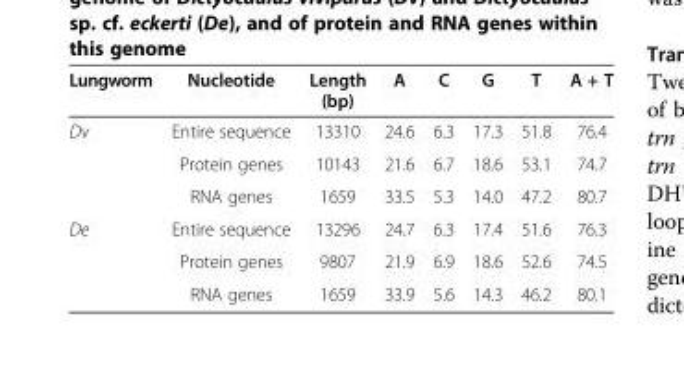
<table><thead><tr><td>Lungworm</td><td>Nucleotide</td><td>Length (bp)</td><td>A</td><td>C</td><td>G</td><td>T</td><td>A + T</td></tr></thead><tbody><tr><td rowspan="3">Dv</td><td>Entire sequence</td><td>13310</td><td>24.6</td><td>6.3</td><td>17.3</td><td>51.8</td><td>76.4</td></tr><tr><td>Protein genes</td><td>10143</td><td>21.6</td><td>6.7</td><td>18.6</td><td>53.1</td><td>74.7</td></tr><tr><td>RNA genes</td><td>1659</td><td>33.5</td><td>5.3</td><td>14.0</td><td>47.2</td><td>80.7</td></tr><tr><td rowspan="3">De</td><td>Entire sequence</td><td>13296</td><td>24.7</td><td>6.3</td><td>17.4</td><td>51.6</td><td>76.3</td></tr><tr><td>Protein genes</td><td>9807</td><td>21.9</td><td>6.9</td><td>18.6</td><td>52.6</td><td>74.5</td></tr><tr><td>RNA genes</td><td>1659</td><td>33.9</td><td>5.6</td><td>14.3</td><td>46.2</td><td>80.1</td></tr></tbody></table>